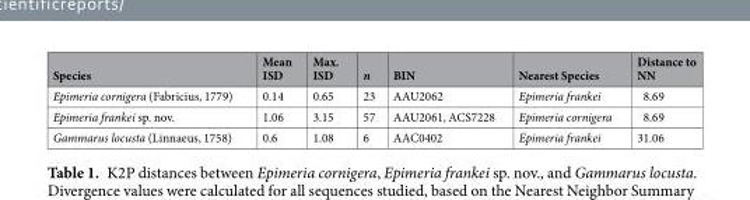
<table><thead><tr><td>Species</td><td>Mean ISD</td><td>Max. ISD</td><td>n</td><td>BIN</td><td>Nearest Species</td><td>Distance to NN</td></tr></thead><tbody><tr><td>Epimeria cornigera (Fabricius, 1779)</td><td>0.14</td><td>0.65</td><td>23</td><td>AAU2062</td><td>Epimeria frankei</td><td>8.69</td></tr><tr><td>Epimeria frankei sp. nov.</td><td>1.06</td><td>3.15</td><td>57</td><td>AAU2061, ACS7228</td><td>Epimeria cornigera</td><td>8.69</td></tr><tr><td>Gammarus locusta (Linnaeus, 1758)</td><td>0.6</td><td>1.08</td><td>6</td><td>AAC0402</td><td>Epimeria frankei</td><td>31.06</td></tr></tbody></table>